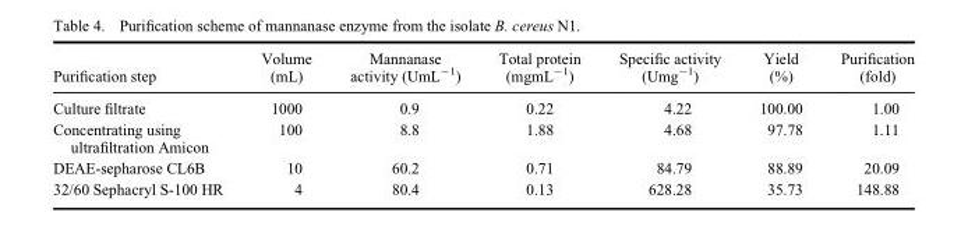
<table><thead><tr><td>Purification step</td><td>Volume (mL)</td><td>Mannanase activity (UmL<sup>−1</sup>)</td><td>Total protein (mgmL<sup>−1</sup>)</td><td>Specific activity (Umg<sup>−1</sup>)</td><td>Yield (%)</td><td>Purification (fold)</td></tr></thead><tbody><tr><td>Culture filtrate</td><td>1000</td><td>0.9</td><td>0.22</td><td>4.22</td><td>100.00</td><td>1.00</td></tr><tr><td>Concentrating using ultrafiltration Amicon</td><td>100</td><td>8.8</td><td>1.88</td><td>4.68</td><td>97.78</td><td>1.11</td></tr><tr><td>DEAE-sepharose CL6B</td><td>10</td><td>60.2</td><td>0.71</td><td>84.79</td><td>88.89</td><td>20.09</td></tr><tr><td>32/60 Sephacryl S-100 HR</td><td>4</td><td>80.4</td><td>0.13</td><td>628.28</td><td>35.73</td><td>148.88</td></tr></tbody></table>